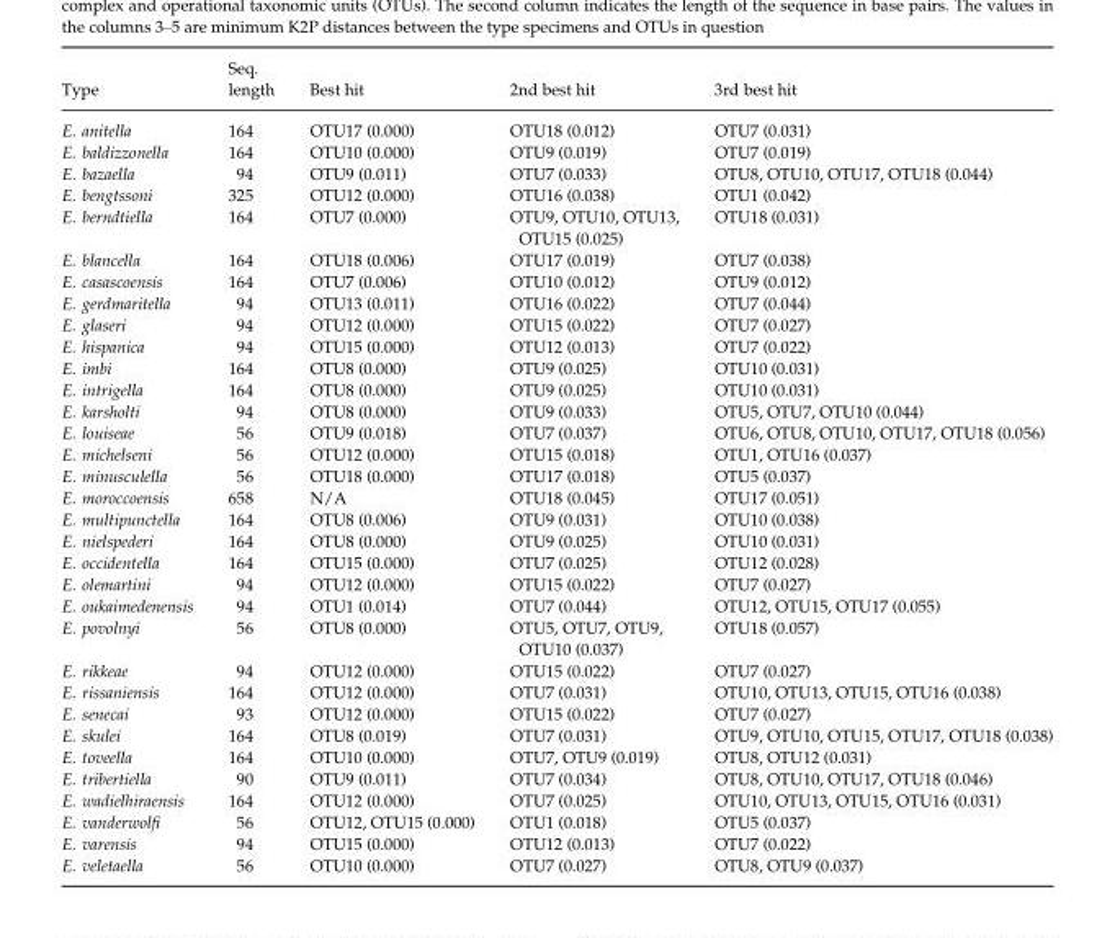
<table><thead><tr><td>Type</td><td>Seq. length</td><td>Best hit</td><td>2nd best hit</td><td>3rd best hit</td></tr></thead><tbody><tr><td>E. anitella</td><td>164</td><td>OTU17 (0.000)</td><td>OTU18 (0.012)</td><td>OTU7 (0.031)</td></tr><tr><td>E. baldizzonella</td><td>164</td><td>OTU10 (0.000)</td><td>OTU9 (0.019)</td><td>OTU7 (0.019)</td></tr><tr><td>E. bazaella</td><td>94</td><td>OTU9 (0.011)</td><td>OTU7 (0.033)</td><td>OTU8, OTU10, OTU17, OTU18 (0.044)</td></tr><tr><td>E. bengtssoni</td><td>325</td><td>OTU12 (0.000)</td><td>OTU16 (0.038)</td><td>OTU1 (0.042)</td></tr><tr><td>E. berndtiella</td><td>164</td><td>OTU7 (0.000)</td><td>OTU9, OTU10, OTU13, OTU15 (0.025)</td><td>OTU18 (0.031)</td></tr><tr><td>E. blancella</td><td>164</td><td>OTU18 (0.006)</td><td>OTU17 (0.019)</td><td>OTU7 (0.038)</td></tr><tr><td>E. casascoensis</td><td>164</td><td>OTU7 (0.006)</td><td>OTU10 (0.012)</td><td>OTU9 (0.012)</td></tr><tr><td>E. gerdmaritella</td><td>94</td><td>OTU13 (0.011)</td><td>OTU16 (0.022)</td><td>OTU7 (0.044)</td></tr><tr><td>E. glaseri</td><td>94</td><td>OTU12 (0.000)</td><td>OTU15 (0.022)</td><td>OTU7 (0.027)</td></tr><tr><td>E. hispanica</td><td>94</td><td>OTU15 (0.000)</td><td>OTU12 (0.013)</td><td>OTU7 (0.022)</td></tr><tr><td>E. imbi</td><td>164</td><td>OTU8 (0.000)</td><td>OTU9 (0.025)</td><td>OTU10 (0.031)</td></tr><tr><td>E. intrigella</td><td>164</td><td>OTU8 (0.000)</td><td>OTU9 (0.025)</td><td>OTU10 (0.031)</td></tr><tr><td>E. karsholti</td><td>94</td><td>OTU8 (0.000)</td><td>OTU9 (0.033)</td><td>OTU5, OTU7, OTU10 (0.044)</td></tr><tr><td>E. louiseae</td><td>56</td><td>OTU9 (0.018)</td><td>OTU7 (0.037)</td><td>OTU6, OTU8, OTU10, OTU17, OTU18 (0.056)</td></tr><tr><td>E. michelseni</td><td>56</td><td>OTU12 (0.000)</td><td>OTU15 (0.018)</td><td>OTU1, OTU16 (0.037)</td></tr><tr><td>E. minusculella</td><td>56</td><td>OTU18 (0.000)</td><td>OTU17 (0.018)</td><td>OTU5 (0.037)</td></tr><tr><td>E. moroccoensis</td><td>658</td><td>N/A</td><td>OTU18 (0.045)</td><td>OTU17 (0.051)</td></tr><tr><td>E. multipunctella</td><td>164</td><td>OTU8 (0.006)</td><td>OTU9 (0.031)</td><td>OTU10 (0.038)</td></tr><tr><td>E. nielspederi</td><td>164</td><td>OTU8 (0.000)</td><td>OTU9 (0.025)</td><td>OTU10 (0.031)</td></tr><tr><td>E. occidentella</td><td>164</td><td>OTU15 (0.000)</td><td>OTU7 (0.025)</td><td>OTU12 (0.028)</td></tr><tr><td>E. olemartini</td><td>94</td><td>OTU12 (0.000)</td><td>OTU15 (0.022)</td><td>OTU7 (0.027)</td></tr><tr><td>E. oukaimedenensis</td><td>94</td><td>OTU1 (0.014)</td><td>OTU7 (0.044)</td><td>OTU12, OTU15, OTU17 (0.055)</td></tr><tr><td>E. povolnyi</td><td>56</td><td>OTU8 (0.000)</td><td>OTU5, OTU7, OTU9, OTU10 (0.037)</td><td>OTU18 (0.057)</td></tr><tr><td>E. rikkeae</td><td>94</td><td>OTU12 (0.000)</td><td>OTU15 (0.022)</td><td>OTU7 (0.027)</td></tr><tr><td>E. rissaniensis</td><td>164</td><td>OTU12 (0.000)</td><td>OTU7 (0.031)</td><td>OTU10, OTU13, OTU15, OTU16 (0.038)</td></tr><tr><td>E. senecai</td><td>93</td><td>OTU12 (0.000)</td><td>OTU15 (0.022)</td><td>OTU7 (0.027)</td></tr><tr><td>E. skulei</td><td>164</td><td>OTU8 (0.019)</td><td>OTU7 (0.031)</td><td>OTU9, OTU10, OTU15, OTU17, OTU18 (0.038)</td></tr><tr><td>E. toveella</td><td>164</td><td>OTU10 (0.000)</td><td>OTU7, OTU9 (0.019)</td><td>OTU8, OTU12 (0.031)</td></tr><tr><td>E. tribertiella</td><td>90</td><td>OTU9 (0.011)</td><td>OTU7 (0.034)</td><td>OTU8, OTU10, OTU17, OTU18 (0.046)</td></tr><tr><td>E. wadielhiraensis</td><td>164</td><td>OTU12 (0.000)</td><td>OTU7 (0.025)</td><td>OTU10, OTU13, OTU15, OTU16 (0.031)</td></tr><tr><td>E. vanderwolfi</td><td>56</td><td>OTU12, OTU15 (0.000)</td><td>OTU1 (0.018)</td><td>OTU5 (0.037)</td></tr><tr><td>E. varensis</td><td>94</td><td>OTU15 (0.000)</td><td>OTU12 (0.013)</td><td>OTU7 (0.022)</td></tr><tr><td>E. veletaella</td><td>56</td><td>OTU10 (0.000)</td><td>OTU7 (0.027)</td><td>OTU8, OTU9 (0.037)</td></tr></tbody></table>